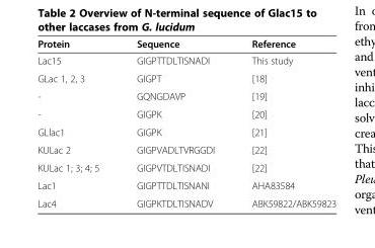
<table><thead><tr><td>Protein</td><td>Sequence</td><td>Reference</td></tr></thead><tbody><tr><td>Lac15</td><td>GIGPTTDLTISNADI</td><td>This study</td></tr><tr><td>GLac 1, 2, 3</td><td>GIGPT</td><td>[18]</td></tr><tr><td>-</td><td>GQNGDAVP</td><td>[19]</td></tr><tr><td>-</td><td>GIGPK</td><td>[20]</td></tr><tr><td>GLlac1</td><td>GIGPK</td><td>[21]</td></tr><tr><td>KULac 2</td><td>GIGPVADLTVRGGDI</td><td>[22]</td></tr><tr><td>KULac 1; 3; 4; 5</td><td>GIGPVTDLTISNADI</td><td>[22]</td></tr><tr><td>Lac1</td><td>GIGPTTDLTISNANI</td><td>AHA83584</td></tr><tr><td>Lac4</td><td>GIGPKTDLTISNADV</td><td>ABK59822/ABK59823</td></tr></tbody></table>